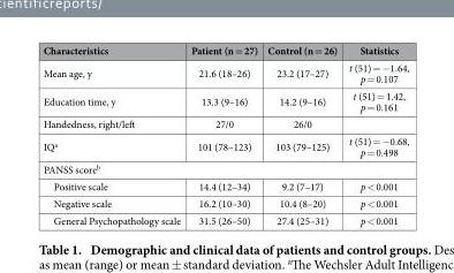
<table><thead><tr><td>Characteristics</td><td>Patient (n = 27)</td><td>Control (n = 26)</td><td>Statistics</td></tr></thead><tbody><tr><td>Mean age, y</td><td>21.6 (18–26)</td><td>23.2 (17–27)</td><td>t (51) = − 1.64, p = 0.107</td></tr><tr><td>Education time, y</td><td>13.3 (9–16)</td><td>14.2 (9–16)</td><td>t (51) = 1.42, p = 0.161</td></tr><tr><td>Handedness, right/left</td><td>27/0</td><td>26/0</td><td></td></tr><tr><td>IQ<sup>a</sup></td><td>101 (78–123)</td><td>103 (79–125)</td><td>t (51) = − 0.68, p = 0.498</td></tr><tr><td colspan="4">PANSS score<sup>b</sup></td></tr><tr><td>Positive scale</td><td>14.4 (12–34)</td><td>9.2 (7–17)</td><td>p &lt; 0.001</td></tr><tr><td>Negative scale</td><td>16.2 (10–30)</td><td>10.4 (8–20)</td><td>p &lt; 0.001</td></tr><tr><td>General Psychopathology scale</td><td>31.5 (26–50)</td><td>27.4 (25–31)</td><td>p &lt; 0.001</td></tr></tbody></table>